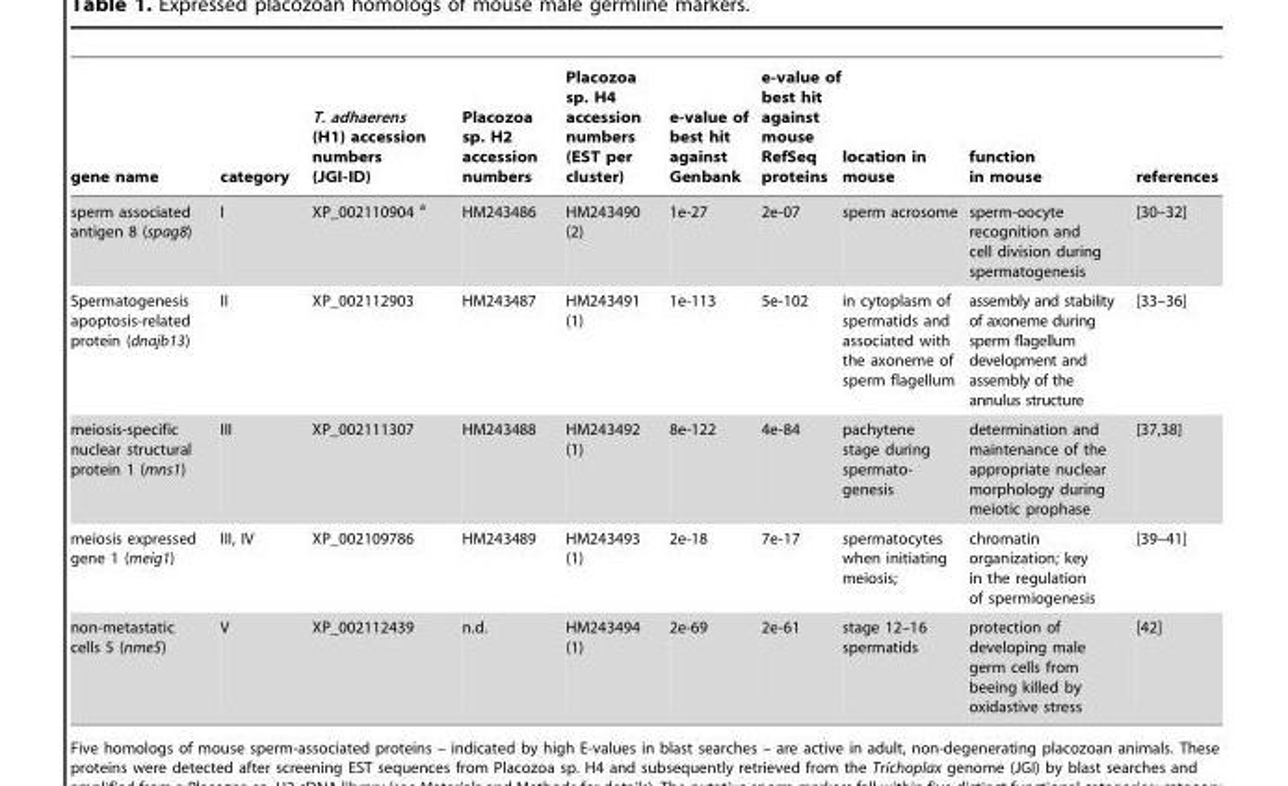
<table><thead><tr><td>gene name</td><td>category</td><td>T. adhaerens (H1) accession numbers (JGI-ID)</td><td>Placozoa sp. H2 accession numbers</td><td>Placozoa sp. H4 accession numbers (EST per cluster)</td><td>e-value of best hit against Genbank</td><td>e-value of best hit against mouse RefSeq proteins</td><td>location in mouse</td><td>function in mouse</td><td>references</td></tr></thead><tbody><tr><td>sperm associated antigen 8 (spag8)</td><td>I</td><td>XP_002110904 <sup>a</sup></td><td>HM243486</td><td>HM243490 (2)</td><td>1e-27</td><td>2e-07</td><td>sperm acrosome</td><td>sperm-oocyte recognition and cell division during spermatogenesis</td><td>[30–32]</td></tr><tr><td>Spermatogenesis apoptosis-related protein (dnajb13)</td><td>II</td><td>XP_002112903</td><td>HM243487</td><td>HM243491 (1)</td><td>1e-113</td><td>5e-102</td><td>in cytoplasm of spermatids and associated with the axoneme of sperm flagellum</td><td>assembly and stability of axoneme during sperm flagellum development and assembly of the annulus structure</td><td>[33–36]</td></tr><tr><td>meiosis-specific nuclear structural protein 1 (mns1)</td><td>III</td><td>XP_002111307</td><td>HM243488</td><td>HM243492 (1)</td><td>8e-122</td><td>4e-84</td><td>pachytene stage during spermato- genesis</td><td>determination and maintenance of the appropriate nuclear morphology during meiotic prophase</td><td>[37,38]</td></tr><tr><td>meiosis expressed gene 1 (meig1)</td><td>III, IV</td><td>XP_002109786</td><td>HM243489</td><td>HM243493 (1)</td><td>2e-18</td><td>7e-17</td><td>spermatocytes when initiating meiosis;</td><td>chromatin organization; key in the regulation of spermiogenesis</td><td>[39–41]</td></tr><tr><td>non-metastatic cells 5 (nme5)</td><td>V</td><td>XP_002112439</td><td>n.d.</td><td>HM243494 (1)</td><td>2e-69</td><td>2e-61</td><td>stage 12–16 spermatids</td><td>protection of developing male germ cells from beeing killed by oxidastive stress</td><td>[42]</td></tr></tbody></table>